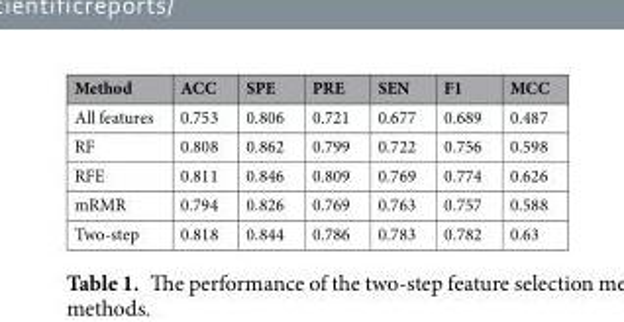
<table><thead><tr><td>Method</td><td>ACC</td><td>SPE</td><td>PRE</td><td>SEN</td><td>F1</td><td>MCC</td></tr></thead><tbody><tr><td>All features</td><td>0.753</td><td>0.806</td><td>0.721</td><td>0.677</td><td>0.689</td><td>0.487</td></tr><tr><td>RF</td><td>0.808</td><td>0.862</td><td>0.799</td><td>0.722</td><td>0.756</td><td>0.598</td></tr><tr><td>RFE</td><td>0.811</td><td>0.846</td><td>0.809</td><td>0.769</td><td>0.774</td><td>0.626</td></tr><tr><td>mRMR</td><td>0.794</td><td>0.826</td><td>0.769</td><td>0.763</td><td>0.757</td><td>0.588</td></tr><tr><td>Two-step</td><td>0.818</td><td>0.844</td><td>0.786</td><td>0.783</td><td>0.782</td><td>0.63</td></tr></tbody></table>